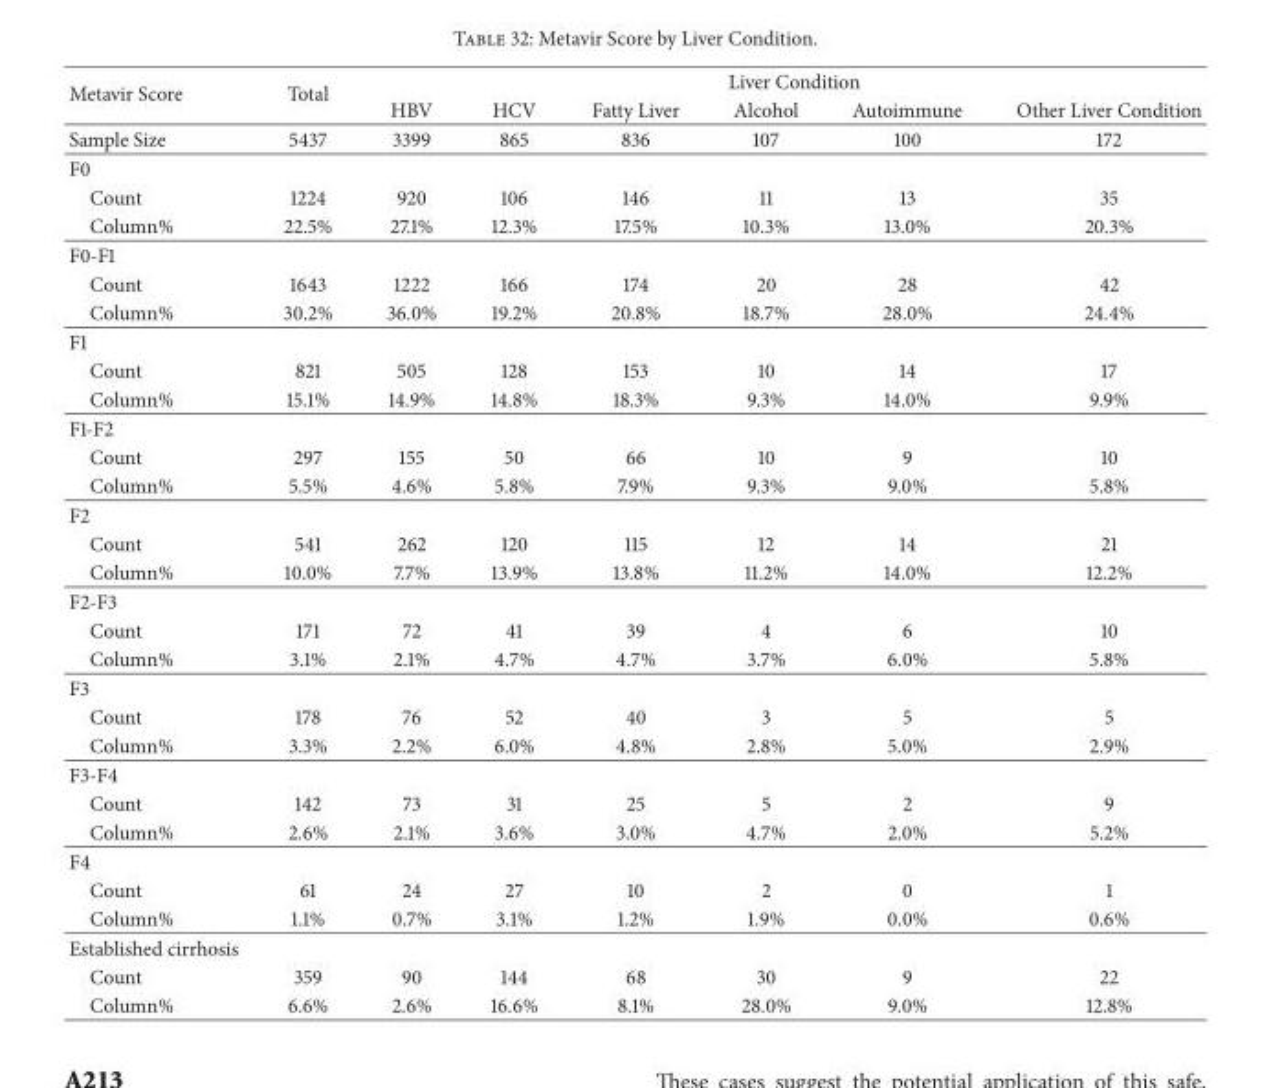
<table><thead><tr><td rowspan="2">Metavir Score</td><td rowspan="2">Total</td><td colspan="6">Liver Condition</td></tr><tr><td>HBV</td><td>HCV</td><td>Fatty Liver</td><td>Alcohol</td><td>Autoimmune</td><td>Other Liver Condition</td></tr></thead><tbody><tr><td>Sample Size</td><td>5437</td><td>3399</td><td>865</td><td>836</td><td>107</td><td>100</td><td>172</td></tr><tr><td colspan="8">F0</td></tr><tr><td>Count</td><td>1224</td><td>920</td><td>106</td><td>146</td><td>11</td><td>13</td><td>35</td></tr><tr><td>Column%</td><td>22.5%</td><td>27.1%</td><td>12.3%</td><td>17.5%</td><td>10.3%</td><td>13.0%</td><td>20.3%</td></tr><tr><td colspan="8">F0-F1</td></tr><tr><td>Count</td><td>1643</td><td>1222</td><td>166</td><td>174</td><td>20</td><td>28</td><td>42</td></tr><tr><td>Column%</td><td>30.2%</td><td>36.0%</td><td>19.2%</td><td>20.8%</td><td>18.7%</td><td>28.0%</td><td>24.4%</td></tr><tr><td colspan="8">F1</td></tr><tr><td>Count</td><td>821</td><td>505</td><td>128</td><td>153</td><td>10</td><td>14</td><td>17</td></tr><tr><td>Column%</td><td>15.1%</td><td>14.9%</td><td>14.8%</td><td>18.3%</td><td>9.3%</td><td>14.0%</td><td>9.9%</td></tr><tr><td colspan="8">F1-F2</td></tr><tr><td>Count</td><td>297</td><td>155</td><td>50</td><td>66</td><td>10</td><td>9</td><td>10</td></tr><tr><td>Column%</td><td>5.5%</td><td>4.6%</td><td>5.8%</td><td>7.9%</td><td>9.3%</td><td>9.0%</td><td>5.8%</td></tr><tr><td colspan="8">F2</td></tr><tr><td>Count</td><td>541</td><td>262</td><td>120</td><td>115</td><td>12</td><td>14</td><td>21</td></tr><tr><td>Column%</td><td>10.0%</td><td>7.7%</td><td>13.9%</td><td>13.8%</td><td>11.2%</td><td>14.0%</td><td>12.2%</td></tr><tr><td colspan="8">F2-F3</td></tr><tr><td>Count</td><td>171</td><td>72</td><td>41</td><td>39</td><td>4</td><td>6</td><td>10</td></tr><tr><td>Column%</td><td>3.1%</td><td>2.1%</td><td>4.7%</td><td>4.7%</td><td>3.7%</td><td>6.0%</td><td>5.8%</td></tr><tr><td colspan="8">F3</td></tr><tr><td>Count</td><td>178</td><td>76</td><td>52</td><td>40</td><td>3</td><td>5</td><td>5</td></tr><tr><td>Column%</td><td>3.3%</td><td>2.2%</td><td>6.0%</td><td>4.8%</td><td>2.8%</td><td>5.0%</td><td>2.9%</td></tr><tr><td colspan="8">F3-F4</td></tr><tr><td>Count</td><td>142</td><td>73</td><td>31</td><td>25</td><td>5</td><td>2</td><td>9</td></tr><tr><td>Column%</td><td>2.6%</td><td>2.1%</td><td>3.6%</td><td>3.0%</td><td>4.7%</td><td>2.0%</td><td>5.2%</td></tr><tr><td colspan="8">F4</td></tr><tr><td>Count</td><td>61</td><td>24</td><td>27</td><td>10</td><td>2</td><td>0</td><td>1</td></tr><tr><td>Column%</td><td>1.1%</td><td>0.7%</td><td>3.1%</td><td>1.2%</td><td>1.9%</td><td>0.0%</td><td>0.6%</td></tr><tr><td colspan="8">Established cirrhosis</td></tr><tr><td>Count</td><td>359</td><td>90</td><td>144</td><td>68</td><td>30</td><td>9</td><td>22</td></tr><tr><td>Column%</td><td>6.6%</td><td>2.6%</td><td>16.6%</td><td>8.1%</td><td>28.0%</td><td>9.0%</td><td>12.8%</td></tr></tbody></table>